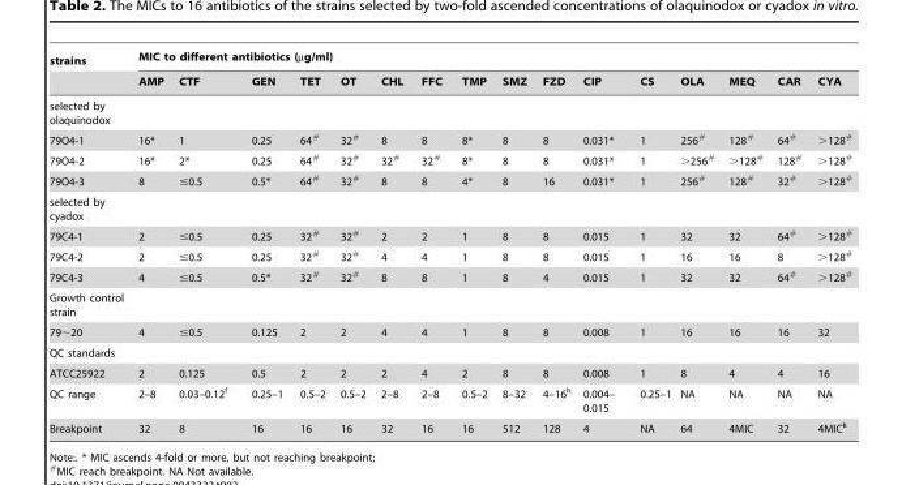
<table><thead><tr><td rowspan="2">strains</td><td colspan="16">MIC to different antibiotics (µg/ml)</td></tr><tr><td>AMP</td><td>CTF</td><td>GEN</td><td>TET</td><td>OT</td><td>CHL</td><td>FFC</td><td>TMP</td><td>SMZ</td><td>FZD</td><td>CIP</td><td>CS</td><td>OLA</td><td>MEQ</td><td>CAR</td><td>CYA</td></tr></thead><tbody><tr><td colspan="17">selected by olaquinodox</td></tr><tr><td>79O4-1</td><td>16*</td><td>1</td><td>0.25</td><td>64#</td><td>32#</td><td>8</td><td>8</td><td>8*</td><td>8</td><td>8</td><td>0.031*</td><td>1</td><td>256#</td><td>128#</td><td>64#</td><td>&gt;128#</td></tr><tr><td>79O4-2</td><td>16*</td><td>2*</td><td>0.25</td><td>64#</td><td>32#</td><td>32#</td><td>32#</td><td>8*</td><td>8</td><td>8</td><td>0.031*</td><td>1</td><td>&gt;256#</td><td>&gt;128#</td><td>128#</td><td>&gt;128#</td></tr><tr><td>79O4-3</td><td>8</td><td>≤0.5</td><td>0.5*</td><td>64#</td><td>32#</td><td>8</td><td>8</td><td>4*</td><td>8</td><td>16</td><td>0.031*</td><td>1</td><td>256#</td><td>128#</td><td>32#</td><td>&gt;128#</td></tr><tr><td colspan="17">selected by cyadox</td></tr><tr><td>79C4-1</td><td>2</td><td>≤0.5</td><td>0.25</td><td>32#</td><td>32#</td><td>2</td><td>2</td><td>1</td><td>8</td><td>8</td><td>0.015</td><td>1</td><td>32</td><td>32</td><td>64#</td><td>&gt;128#</td></tr><tr><td>79C4-2</td><td>2</td><td>≤0.5</td><td>0.25</td><td>32#</td><td>32#</td><td>4</td><td>4</td><td>1</td><td>8</td><td>8</td><td>0.015</td><td>1</td><td>16</td><td>16</td><td>8</td><td>&gt;128#</td></tr><tr><td>79C4-3</td><td>4</td><td>≤0.5</td><td>0.5*</td><td>32#</td><td>32#</td><td>8</td><td>8</td><td>1</td><td>8</td><td>4</td><td>0.015</td><td>1</td><td>32</td><td>32</td><td>64#</td><td>&gt;128#</td></tr><tr><td colspan="17">Growth control strain</td></tr><tr><td>79∼20</td><td>4</td><td>≤0.5</td><td>0.125</td><td>2</td><td>2</td><td>4</td><td>4</td><td>1</td><td>8</td><td>8</td><td>0.008</td><td>1</td><td>16</td><td>16</td><td>16</td><td>32</td></tr><tr><td colspan="17">QC standards</td></tr><tr><td>ATCC25922</td><td>2</td><td>0.125</td><td>0.5</td><td>2</td><td>2</td><td>2</td><td>4</td><td>2</td><td>8</td><td>8</td><td>0.008</td><td>1</td><td>8</td><td>4</td><td>4</td><td>16</td></tr><tr><td>QC range</td><td>2–8</td><td>0.03–0.12<sup>f</sup></td><td>0.25–1</td><td>0.5–2</td><td>0.5–2</td><td>2–8</td><td>2–8</td><td>0.5–2</td><td>8–32</td><td>4–16<sup>h</sup></td><td>0.004– 0.015</td><td>0.25–1</td><td>NA</td><td>NA</td><td>NA</td><td>NA</td></tr><tr><td>Breakpoint</td><td>32</td><td>8</td><td>16</td><td>16</td><td>16</td><td>32</td><td>16</td><td>16</td><td>512</td><td>128</td><td>4</td><td>NA</td><td>64</td><td>4MIC</td><td>32</td><td>4MIC<sup>k</sup></td></tr></tbody></table>